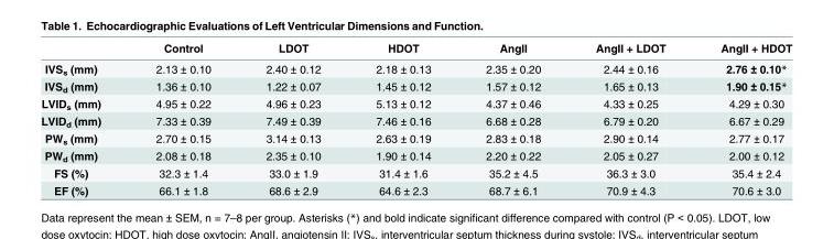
<table><thead><tr><td></td><td>Control</td><td>LDOT</td><td>HDOT</td><td>AngII</td><td>AngII + LDOT</td><td>AngII + HDOT</td></tr></thead><tbody><tr><td>IVS<sub>s</sub> (mm)</td><td>2.13 ± 0.10</td><td>2.40 ± 0.12</td><td>2.18 ± 0.13</td><td>2.35 ± 0.20</td><td>2.44 ± 0.16</td><td>2.76 ± 0.10*</td></tr><tr><td>IVS<sub>d</sub> (mm)</td><td>1.36 ± 0.10</td><td>1.22 ± 0.07</td><td>1.45 ± 0.12</td><td>1.57 ± 0.12</td><td>1.65 ± 0.13</td><td>1.90 ± 0.15*</td></tr><tr><td>LVID<sub>s</sub> (mm)</td><td>4.95 ± 0.22</td><td>4.96 ± 0.23</td><td>5.13 ± 0.12</td><td>4.37 ± 0.46</td><td>4.33 ± 0.25</td><td>4.29 ± 0.30</td></tr><tr><td>LVID<sub>d</sub> (mm)</td><td>7.33 ± 0.39</td><td>7.49 ± 0.39</td><td>7.46 ± 0.16</td><td>6.68 ± 0.28</td><td>6.79 ± 0.20</td><td>6.67 ± 0.29</td></tr><tr><td>PW<sub>s</sub> (mm)</td><td>2.70 ± 0.15</td><td>3.14 ± 0.13</td><td>2.63 ± 0.19</td><td>2.83 ± 0.18</td><td>2.90 ± 0.14</td><td>2.77 ± 0.17</td></tr><tr><td>PW<sub>d</sub> (mm)</td><td>2.08 ± 0.18</td><td>2.35 ± 0.10</td><td>1.90 ± 0.14</td><td>2.20 ± 0.22</td><td>2.05 ± 0.27</td><td>2.00 ± 0.12</td></tr><tr><td>FS (%)</td><td>32.3 ± 1.4</td><td>33.0 ± 1.9</td><td>31.4 ± 1.6</td><td>35.2 ± 4.5</td><td>36.3 ± 3.0</td><td>35.4 ± 2.4</td></tr><tr><td>EF (%)</td><td>66.1 ± 1.8</td><td>68.6 ± 2.9</td><td>64.6 ± 2.3</td><td>68.7 ± 6.1</td><td>70.9 ± 4.3</td><td>70.6 ± 3.0</td></tr></tbody></table>